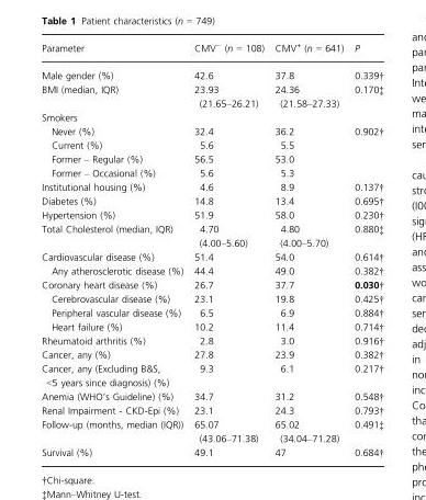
<table><thead><tr><td>Parameter</td><td>CMV<sup>−</sup> (n = 108)</td><td>CMV<sup>+</sup> (n = 641)</td><td>P</td></tr></thead><tbody><tr><td>Male gender (%)</td><td>42.6</td><td>37.8</td><td>0.339†</td></tr><tr><td>BMI (median, IQR)</td><td>23.93 (21.65–26.21)</td><td>24.36 (21.58–27.33)</td><td>0.170‡</td></tr><tr><td colspan="4">Smokers</td></tr><tr><td>Never (%)</td><td>32.4</td><td>36.2</td><td rowspan="4">0.902†</td></tr><tr><td>Current (%)</td><td>5.6</td><td>5.5</td></tr><tr><td>Former – Regular (%)</td><td>56.5</td><td>53.0</td></tr><tr><td>Former – Occasional (%)</td><td>5.6</td><td>5.3</td></tr><tr><td>Institutional housing (%)</td><td>4.6</td><td>8.9</td><td>0.137†</td></tr><tr><td>Diabetes (%)</td><td>14.8</td><td>13.4</td><td>0.695†</td></tr><tr><td>Hypertension (%)</td><td>51.9</td><td>58.0</td><td>0.230†</td></tr><tr><td>Total Cholesterol (median, IQR)</td><td>4.70 (4.00–5.60)</td><td>4.80 (4.00–5.70)</td><td>0.880‡</td></tr><tr><td>Cardiovascular disease (%)</td><td>51.4</td><td>54.0</td><td>0.614†</td></tr><tr><td>Any atherosclerotic disease (%)</td><td>44.4</td><td>49.0</td><td>0.382†</td></tr><tr><td>Coronary heart disease (%)</td><td>26.7</td><td>37.7</td><td>0.030†</td></tr><tr><td>Cerebrovascular disease (%)</td><td>23.1</td><td>19.8</td><td>0.425†</td></tr><tr><td>Peripheral vascular disease (%)</td><td>6.5</td><td>6.9</td><td>0.884†</td></tr><tr><td>Heart failure (%)</td><td>10.2</td><td>11.4</td><td>0.714†</td></tr><tr><td>Rheumatoid arthritis (%)</td><td>2.8</td><td>3.0</td><td>0.916†</td></tr><tr><td>Cancer, any (%)</td><td>27.8</td><td>23.9</td><td>0.382†</td></tr><tr><td>Cancer, any (Excluding B&amp;S, &lt;5 years since diagnosis) (%)</td><td>9.3</td><td>6.1</td><td>0.217†</td></tr><tr><td>Anemia (WHO’s Guideline) (%)</td><td>34.7</td><td>31.2</td><td>0.548†</td></tr><tr><td>Renal Impairment - CKD-Epi (%)</td><td>23.1</td><td>24.3</td><td>0.793†</td></tr><tr><td>Follow-up (months, median (IQR))</td><td>65.07 (43.06–71.38)</td><td>65.02 (34.04–71.28)</td><td>0.491‡</td></tr><tr><td>Survival (%)</td><td>49.1</td><td>47</td><td>0.684†</td></tr></tbody></table>